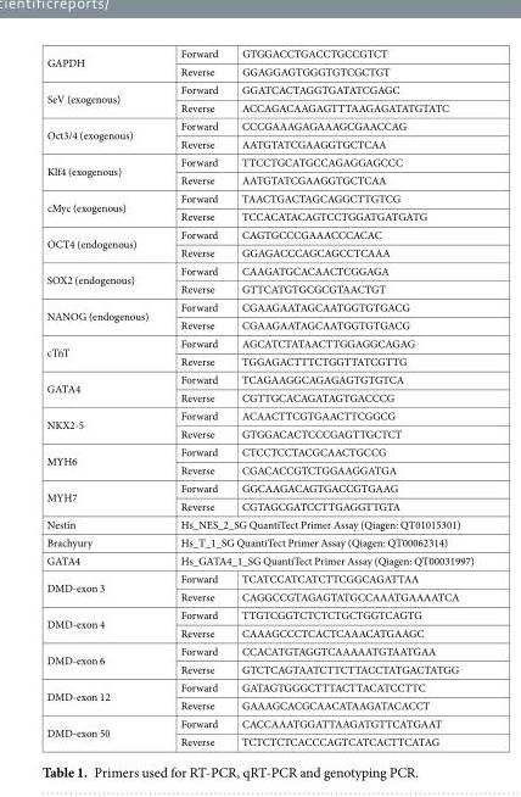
<table><tbody><tr><td rowspan="2">GAPDH</td><td>Forward</td><td>GTGGACCTGACCTGCCGTCT</td></tr><tr><td>Reverse</td><td>GGAGGAGTGGGTGTCGCTGT</td></tr><tr><td rowspan="2">SeV (exogenous)</td><td>Forward</td><td>GGATCACTAGGTGATATCGAGC</td></tr><tr><td>Reverse</td><td>ACCAGACAAGAGTTTAAGAGATATGTATC</td></tr><tr><td rowspan="2">Oct3/4 (exogenous)</td><td>Forward</td><td>CCCGAAAGAGAAAGCGAACCAG</td></tr><tr><td>Reverse</td><td>AATGTATCGAAGGTGCTCAA</td></tr><tr><td rowspan="2">Klf4 (exogenous)</td><td>Forward</td><td>TTCCTGCATGCCAGAGGAGCCC</td></tr><tr><td>Reverse</td><td>AATGTATCGAAGGTGCTCAA</td></tr><tr><td rowspan="2">cMyc (exogenous)</td><td>Forward</td><td>TAACTGACTAGCAGGCTTGTCG</td></tr><tr><td>Reverse</td><td>TCCACATACAGTCCTGGATGATGATG</td></tr><tr><td rowspan="2">OCT4 (endogenous)</td><td>Forward</td><td>CAGTGCCCGAAACCCACAC</td></tr><tr><td>Reverse</td><td>GGAGACCCAGCAGCCTCAAA</td></tr><tr><td rowspan="2">SOX2 (endogenous)</td><td>Forward</td><td>CAAGATGCACAACTCGGAGA</td></tr><tr><td>Reverse</td><td>GTTCATGTGCGCGTAACTGT</td></tr><tr><td rowspan="2">NANOG (endogenous)</td><td>Forward</td><td>CGAAGAATAGCAATGGTGTGACG</td></tr><tr><td>Reverse</td><td>CGAAGAATAGCAATGGTGTGACG</td></tr><tr><td rowspan="2">cTnT</td><td>Forward</td><td>AGCATCTATAACTTGGAGGCAGAG</td></tr><tr><td>Reverse</td><td>TGGAGACTTTCTGGTTATCGTTG</td></tr><tr><td rowspan="2">GATA4</td><td>Forward</td><td>TCAGAAGGCAGAGAGTGTGTCA</td></tr><tr><td>Reverse</td><td>CGTTGCACAGATAGTGACCCG</td></tr><tr><td rowspan="2">NKX2-5</td><td>Forward</td><td>ACAACTTCGTGAACTTCGGCG</td></tr><tr><td>Reverse</td><td>GTGGACACTCCCGAGTTGCTCT</td></tr><tr><td rowspan="2">MYH6</td><td>Forward</td><td>CTCCTCCTACGCAACTGCCG</td></tr><tr><td>Reverse</td><td>CGACACCGTCTGGAAGGATGA</td></tr><tr><td rowspan="2">MYH7</td><td>Forward</td><td>GGCAAGACAGTGACCGTGAAG</td></tr><tr><td>Reverse</td><td>CGTAGCGATCCTTGAGGTTGTA</td></tr><tr><td>Nestin</td><td colspan="2">Hs_NES_2_SG QuantiTect Primer Assay (Qiagen: QT01015301)</td></tr><tr><td>Brachyury</td><td colspan="2">Hs_T_1_SG QuantiTect Primer Assay (Qiagen: QT00062314)</td></tr><tr><td>GATA4</td><td colspan="2">Hs_GATA4_1_SG QuantiTect Primer Assay (Qiagen: QT00031997)</td></tr><tr><td rowspan="2">DMD-exon 3</td><td>Forward</td><td>TCATCCATCATCTTCGGCAGATTAA</td></tr><tr><td>Reverse</td><td>CAGGCCGTAGAGTATGCCAAATGAAAATCA</td></tr><tr><td rowspan="2">DMD-exon 4</td><td>Forward</td><td>TTGTCGGTCTCTCTGCTGGTCAGTG</td></tr><tr><td>Reverse</td><td>CAAAGCCCTCACTCAAACATGAAGC</td></tr><tr><td rowspan="2">DMD-exon 6</td><td>Forward</td><td>CCACATGTAGGTCAAAAATGTAATGAA</td></tr><tr><td>Reverse</td><td>GTCTCAGTAATCTTCTTACCTATGACTATGG</td></tr><tr><td rowspan="2">DMD-exon 12</td><td>Forward</td><td>GATAGTGGGCTTTACTTACATCCTTC</td></tr><tr><td>Reverse</td><td>GAAAGCACGCAACATAAGATACACCT</td></tr><tr><td rowspan="2">DMD-exon 50</td><td>Forward</td><td>CACCAAATGGATTAAGATGTTCATGAAT</td></tr><tr><td>Reverse</td><td>TCTCTCTCACCCAGTCATCACTTCATAG</td></tr></tbody></table>